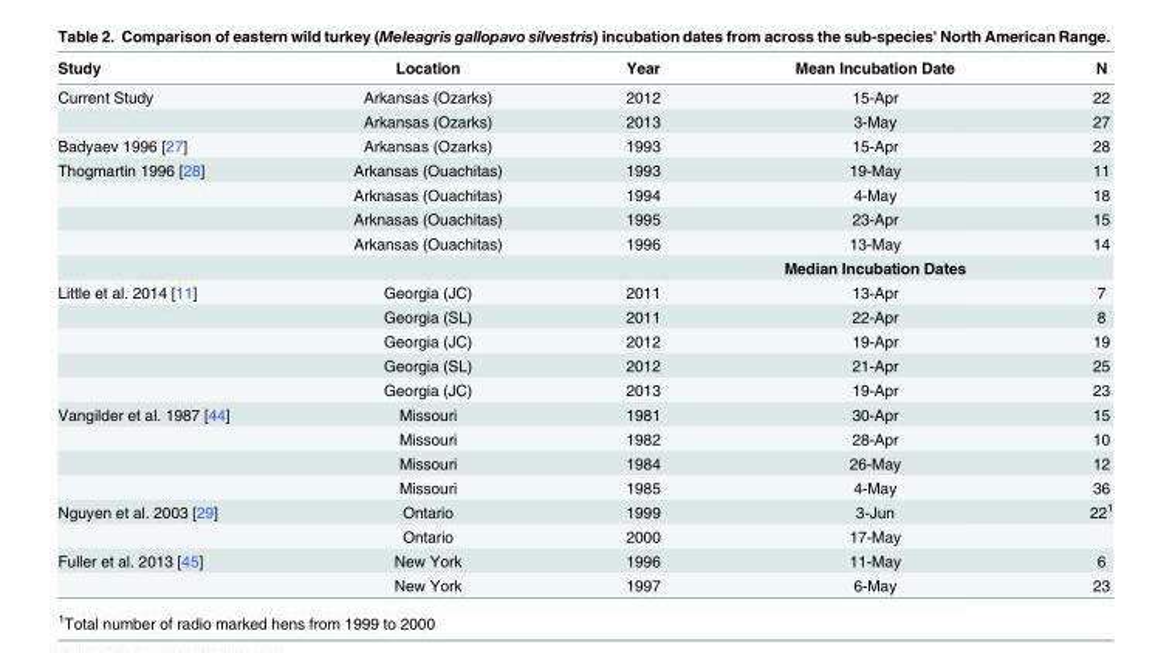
<table><thead><tr><td>Study</td><td>Location</td><td>Year</td><td>Mean Incubation Date</td><td>N</td></tr></thead><tbody><tr><td rowspan="2">Current Study</td><td>Arkansas (Ozarks)</td><td>2012</td><td>15-Apr</td><td>22</td></tr><tr><td>Arkansas (Ozarks)</td><td>2013</td><td>3-May</td><td>27</td></tr><tr><td>Badyaev 1996 [27]</td><td>Arkansas (Ozarks)</td><td>1993</td><td>15-Apr</td><td>28</td></tr><tr><td rowspan="5">Thogmartin 1996 [28]</td><td>Arkansas (Ouachitas)</td><td>1993</td><td>19-May</td><td>11</td></tr><tr><td>Arknasas (Ouachitas)</td><td>1994</td><td>4-May</td><td>18</td></tr><tr><td>Arknasas (Ouachitas)</td><td>1995</td><td>23-Apr</td><td>15</td></tr><tr><td>Arkansas (Ouachitas)</td><td>1996</td><td>13-May</td><td>14</td></tr><tr><td></td><td></td><td>Median Incubation Dates</td><td></td></tr><tr><td rowspan="5">Little et al. 2014 [11]</td><td>Georgia (JC)</td><td>2011</td><td>13-Apr</td><td>7</td></tr><tr><td>Georgia (SL)</td><td>2011</td><td>22-Apr</td><td>8</td></tr><tr><td>Georgia (JC)</td><td>2012</td><td>19-Apr</td><td>19</td></tr><tr><td>Georgia (SL)</td><td>2012</td><td>21-Apr</td><td>25</td></tr><tr><td>Georgia (JC)</td><td>2013</td><td>19-Apr</td><td>23</td></tr><tr><td rowspan="4">Vangilder et al. 1987 [44]</td><td>Missouri</td><td>1981</td><td>30-Apr</td><td>15</td></tr><tr><td>Missouri</td><td>1982</td><td>28-Apr</td><td>10</td></tr><tr><td>Missouri</td><td>1984</td><td>26-May</td><td>12</td></tr><tr><td>Missouri</td><td>1985</td><td>4-May</td><td>36</td></tr><tr><td rowspan="2">Nguyen et al. 2003 [29]</td><td>Ontario</td><td>1999</td><td>3-Jun</td><td>22<sup>1</sup></td></tr><tr><td>Ontario</td><td>2000</td><td>17-May</td><td></td></tr><tr><td rowspan="2">Fuller et al. 2013 [45]</td><td>New York</td><td>1996</td><td>11-May</td><td>6</td></tr><tr><td>New York</td><td>1997</td><td>6-May</td><td>23</td></tr></tbody></table>